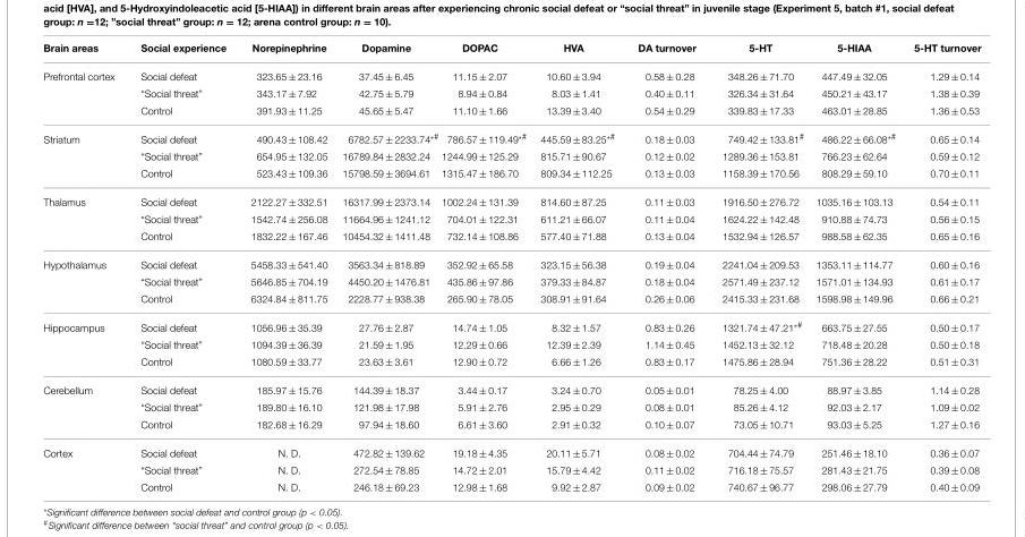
<table><thead><tr><td>Brain areas</td><td>Social experience</td><td>Norepinephrine</td><td>Dopamine</td><td>DOPAC</td><td>HVA</td><td>DA turnover</td><td>5-HT</td><td>5-HIAA</td><td>5-HT turnover</td></tr></thead><tbody><tr><td rowspan="3">Prefrontal cortex</td><td>Social defeat</td><td>323.65 ± 23.16</td><td>37.45 ± 6.45</td><td>11.15 ± 2.07</td><td>10.60 ± 3.94</td><td>0.58 ± 0.28</td><td>348.26 ± 71.70</td><td>447.49 ± 32.05</td><td>1.29 ± 0.14</td></tr><tr><td>“Social threat”</td><td>343.17 ± 7.92</td><td>42.75 ± 5.79</td><td>8.94 ± 0.84</td><td>8.03 ± 1.41</td><td>0.40 ± 0.11</td><td>326.34 ± 31.64</td><td>450.21 ± 43.17</td><td>1.38 ± 0.39</td></tr><tr><td>Control</td><td>391.93 ± 11.25</td><td>45.65 ± 5.47</td><td>11.10 ± 1.66</td><td>13.39 ± 3.40</td><td>0.54 ± 0.29</td><td>339.83 ± 17.33</td><td>463.01 ± 28.85</td><td>1.36 ± 0.53</td></tr><tr><td rowspan="3">Striatum</td><td>Social defeat</td><td>490.43 ± 108.42</td><td>6782.57 ± 2233.74<sup>*#</sup></td><td>786.57 ± 119.49<sup>*#</sup></td><td>445.59 ± 83.25<sup>*#</sup></td><td>0.18 ± 0.03</td><td>749.42 ± 133.81<sup>#</sup></td><td>486.22 ± 66.08<sup>*#</sup></td><td>0.65 ± 0.14</td></tr><tr><td>“Social threat”</td><td>654.95 ± 132.05</td><td>16789.84 ± 2832.24</td><td>1244.99 ± 125.29</td><td>815.71 ± 90.67</td><td>0.12 ± 0.02</td><td>1289.36 ± 153.81</td><td>766.23 ± 62.64</td><td>0.59 ± 0.12</td></tr><tr><td>Control</td><td>523.43 ± 109.36</td><td>15798.59 ± 3694.61</td><td>1315.47 ± 186.70</td><td>809.34 ± 112.25</td><td>0.13 ± 0.03</td><td>1158.39 ± 170.56</td><td>808.29 ± 59.10</td><td>0.70 ± 0.11</td></tr><tr><td rowspan="3">Thalamus</td><td>Social defeat</td><td>2122.27 ± 332.51</td><td>16317.99 ± 2373.14</td><td>1002.24 ± 131.39</td><td>814.60 ± 87.25</td><td>0.11 ± 0.03</td><td>1916.50 ± 276.72</td><td>1035.16 ± 103.13</td><td>0.54 ± 0.11</td></tr><tr><td>“Social threat”</td><td>1542.74 ± 256.08</td><td>11664.96 ± 1241.12</td><td>704.01 ± 122.31</td><td>611.21 ± 66.07</td><td>0.11 ± 0.04</td><td>1624.22 ± 142.48</td><td>910.88 ± 74.73</td><td>0.56 ± 0.15</td></tr><tr><td>Control</td><td>1832.22 ± 167.46</td><td>10454.32 ± 1411.48</td><td>732.14 ± 108.86</td><td>577.40 ± 71.88</td><td>0.13 ± 0.04</td><td>1532.94 ± 126.57</td><td>988.58 ± 62.35</td><td>0.65 ± 0.16</td></tr><tr><td rowspan="3">Hypothalamus</td><td>Social defeat</td><td>5458.33 ± 541.40</td><td>3563.34 ± 818.89</td><td>352.92 ± 65.58</td><td>323.15 ± 56.38</td><td>0.19 ± 0.04</td><td>2241.04 ± 209.53</td><td>1353.11 ± 114.77</td><td>0.60 ± 0.16</td></tr><tr><td>“Social threat”</td><td>5646.85 ± 704.19</td><td>4450.20 ± 1476.81</td><td>435.86 ± 97.86</td><td>379.33 ± 84.87</td><td>0.18 ± 0.04</td><td>2571.49 ± 237.12</td><td>1571.01 ± 134.93</td><td>0.61 ± 0.17</td></tr><tr><td>Control</td><td>6324.84 ± 811.75</td><td>2228.77 ± 938.38</td><td>265.90 ± 78.05</td><td>308.91 ± 91.64</td><td>0.26 ± 0.06</td><td>2415.33 ± 231.68</td><td>1598.98 ± 149.96</td><td>0.66 ± 0.21</td></tr><tr><td rowspan="3">Hippocampus</td><td>Social defeat</td><td>1056.96 ± 35.39</td><td>27.76 ± 2.87</td><td>14.74 ± 1.05</td><td>8.32 ± 1.57</td><td>0.83 ± 0.26</td><td>1321.74 ± 47.21<sup>*#</sup></td><td>663.75 ± 27.55</td><td>0.50 ± 0.17</td></tr><tr><td>“Social threat”</td><td>1094.39 ± 36.39</td><td>21.59 ± 1.95</td><td>12.29 ± 0.66</td><td>12.39 ± 2.39</td><td>1.14 ± 0.45</td><td>1452.13 ± 32.12</td><td>718.48 ± 20.28</td><td>0.50 ± 0.18</td></tr><tr><td>Control</td><td>1080.59 ± 33.77</td><td>23.63 ± 3.61</td><td>12.90 ± 0.72</td><td>6.66 ± 1.26</td><td>0.83 ± 0.17</td><td>1475.86 ± 28.94</td><td>751.36 ± 28.22</td><td>0.51 ± 0.31</td></tr><tr><td rowspan="3">Cerebellum</td><td>Social defeat</td><td>185.97 ± 15.76</td><td>144.39 ± 18.37</td><td>3.44 ± 0.17</td><td>3.24 ± 0.70</td><td>0.05 ± 0.01</td><td>78.25 ± 4.00</td><td>88.97 ± 3.85</td><td>1.14 ± 0.28</td></tr><tr><td>“Social threat”</td><td>189.80 ± 16.10</td><td>121.98 ± 17.98</td><td>5.91 ± 2.76</td><td>2.95 ± 0.29</td><td>0.08 ± 0.01</td><td>85.26 ± 4.12</td><td>92.03 ± 2.17</td><td>1.09 ± 0.02</td></tr><tr><td>Control</td><td>182.68 ± 16.29</td><td>97.94 ± 18.60</td><td>6.61 ± 3.60</td><td>2.91 ± 0.32</td><td>0.10 ± 0.07</td><td>73.05 ± 10.71</td><td>93.03 ± 5.25</td><td>1.27 ± 0.16</td></tr><tr><td rowspan="3">Cortex</td><td>Social defeat</td><td>N. D.</td><td>472.82 ± 139.62</td><td>19.18 ± 4.35</td><td>20.11 ± 5.71</td><td>0.08 ± 0.02</td><td>704.44 ± 74.79</td><td>251.46 ± 18.10</td><td>0.36 ± 0.07</td></tr><tr><td>“Social threat”</td><td>N. D.</td><td>272.54 ± 78.85</td><td>14.72 ± 2.01</td><td>15.79 ± 4.42</td><td>0.11 ± 0.02</td><td>716.18 ± 75.57</td><td>281.43 ± 21.75</td><td>0.39 ± 0.08</td></tr><tr><td>Control</td><td>N. D.</td><td>246.18 ± 69.23</td><td>12.98 ± 1.68</td><td>9.92 ± 2.87</td><td>0.09 ± 0.02</td><td>740.67 ± 96.77</td><td>298.06 ± 27.79</td><td>0.40 ± 0.09</td></tr></tbody></table>